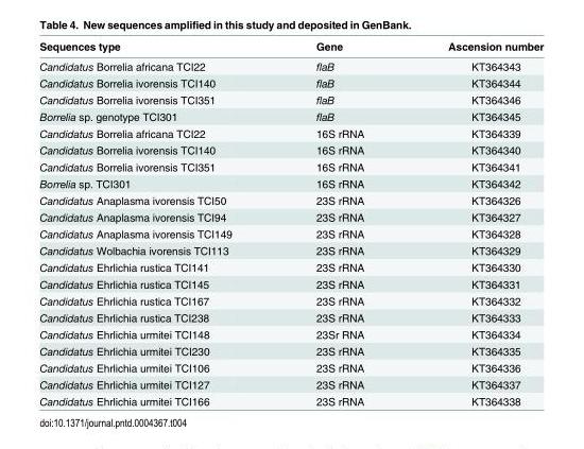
<table><thead><tr><td>Sequences type</td><td>Gene</td><td>Ascension number</td></tr></thead><tbody><tr><td>Candidatus Borrelia africana TCI22</td><td>flaB</td><td>KT364343</td></tr><tr><td>Candidatus Borrelia ivorensis TCI140</td><td>flaB</td><td>KT364344</td></tr><tr><td>Candidatus Borrelia ivorensis TCI351</td><td>flaB</td><td>KT364346</td></tr><tr><td>Borrelia sp. genotype TCI301</td><td>flaB</td><td>KT364345</td></tr><tr><td>Candidatus Borrelia africana TCI22</td><td>16S rRNA</td><td>KT364339</td></tr><tr><td>Candidatus Borrelia ivorensis TCI140</td><td>16S rRNA</td><td>KT364340</td></tr><tr><td>Candidatus Borrelia ivorensis TCI351</td><td>16S rRNA</td><td>KT364341</td></tr><tr><td>Borrelia sp. TCI301</td><td>16S rRNA</td><td>KT364342</td></tr><tr><td>Candidatus Anaplasma ivorensis TCI50</td><td>23S rRNA</td><td>KT364326</td></tr><tr><td>Candidatus Anaplasma ivorensis TCI94</td><td>23S rRNA</td><td>KT364327</td></tr><tr><td>Candidatus Anaplasma ivorensis TCI149</td><td>23S rRNA</td><td>KT364328</td></tr><tr><td>Candidatus Wolbachia ivorensis TCI113</td><td>23S rRNA</td><td>KT364329</td></tr><tr><td>Candidatus Ehrlichia rustica TCI141</td><td>23S rRNA</td><td>KT364330</td></tr><tr><td>Candidatus Ehrlichia rustica TCI145</td><td>23S rRNA</td><td>KT364331</td></tr><tr><td>Candidatus Ehrlichia rustica TCI167</td><td>23S rRNA</td><td>KT364332</td></tr><tr><td>Candidatus Ehrlichia rustica TCI238</td><td>23S rRNA</td><td>KT364333</td></tr><tr><td>Candidatus Ehrlichia urmitei TCI148</td><td>23Sr RNA</td><td>KT364334</td></tr><tr><td>Candidatus Ehrlichia urmitei TCI230</td><td>23S rRNA</td><td>KT364335</td></tr><tr><td>Candidatus Ehrlichia urmitei TCI106</td><td>23S rRNA</td><td>KT364336</td></tr><tr><td>Candidatus Ehrlichia urmitei TCI127</td><td>23S rRNA</td><td>KT364337</td></tr><tr><td>Candidatus Ehrlichia urmitei TCI166</td><td>23S rRNA</td><td>KT364338</td></tr></tbody></table>